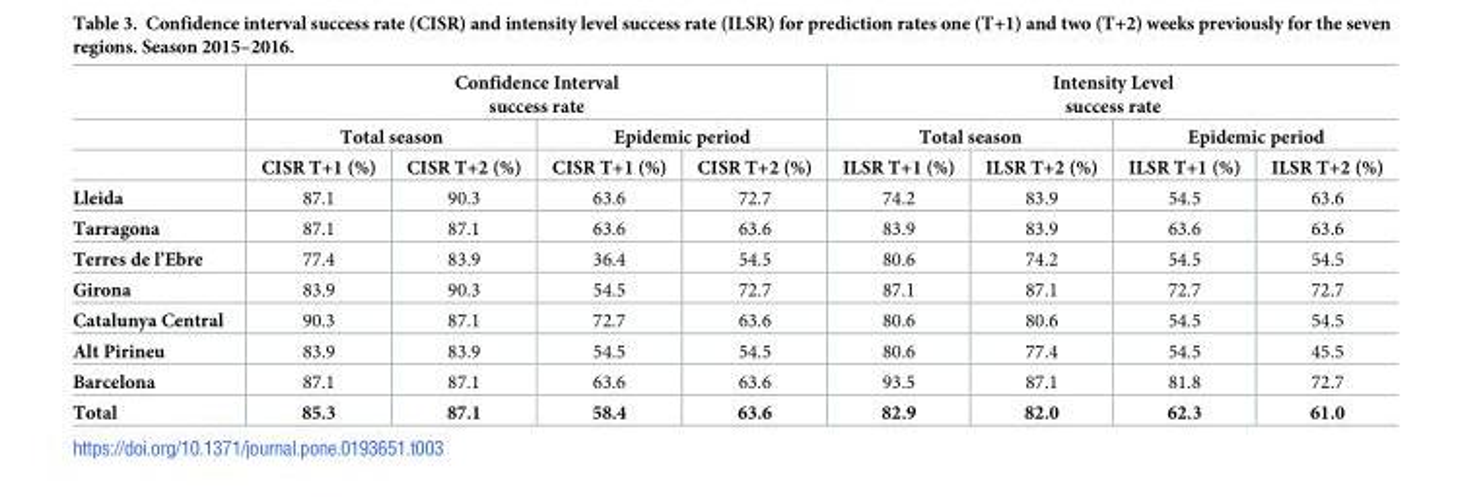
<table><thead><tr><td rowspan="3"></td><td colspan="4">Confidence Interval success rate</td><td colspan="4">Intensity Level success rate</td></tr><tr><td colspan="2">Total season</td><td colspan="2">Epidemic period</td><td colspan="2">Total season</td><td colspan="2">Epidemic period</td></tr><tr><td>CISR T+1 (%)</td><td>CISR T+2 (%)</td><td>CISR T+1 (%)</td><td>CISR T+2 (%)</td><td>ILSR T+1 (%)</td><td>ILSR T+2 (%)</td><td>ILSR T+1 (%)</td><td>ILSR T+2 (%)</td></tr></thead><tbody><tr><td>Lleida</td><td>87.1</td><td>90.3</td><td>63.6</td><td>72.7</td><td>74.2</td><td>83.9</td><td>54.5</td><td>63.6</td></tr><tr><td>Tarragona</td><td>87.1</td><td>87.1</td><td>63.6</td><td>63.6</td><td>83.9</td><td>83.9</td><td>63.6</td><td>63.6</td></tr><tr><td>Terres de l’Ebre</td><td>77.4</td><td>83.9</td><td>36.4</td><td>54.5</td><td>80.6</td><td>74.2</td><td>54.5</td><td>54.5</td></tr><tr><td>Girona</td><td>83.9</td><td>90.3</td><td>54.5</td><td>72.7</td><td>87.1</td><td>87.1</td><td>72.7</td><td>72.7</td></tr><tr><td>Catalunya Central</td><td>90.3</td><td>87.1</td><td>72.7</td><td>63.6</td><td>80.6</td><td>80.6</td><td>54.5</td><td>54.5</td></tr><tr><td>Alt Pirineu</td><td>83.9</td><td>83.9</td><td>54.5</td><td>54.5</td><td>80.6</td><td>77.4</td><td>54.5</td><td>45.5</td></tr><tr><td>Barcelona</td><td>87.1</td><td>87.1</td><td>63.6</td><td>63.6</td><td>93.5</td><td>87.1</td><td>81.8</td><td>72.7</td></tr><tr><td>Total</td><td>85.3</td><td>87.1</td><td>58.4</td><td>63.6</td><td>82.9</td><td>82.0</td><td>62.3</td><td>61.0</td></tr></tbody></table>